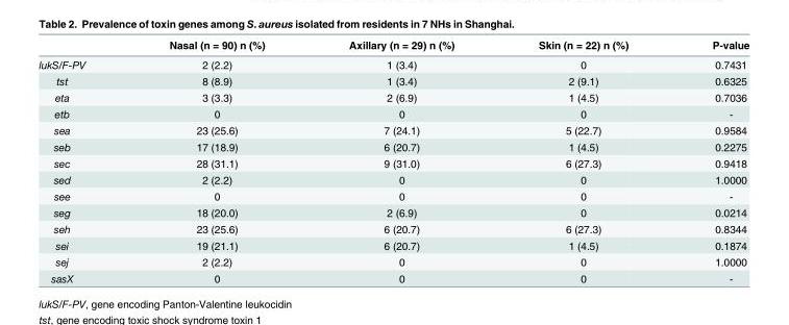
<table><thead><tr><td></td><td>Nasal (n = 90) n (%)</td><td>Axillary (n = 29) n (%)</td><td>Skin (n = 22) n (%)</td><td>P-value</td></tr></thead><tbody><tr><td>lukS/F-PV</td><td>2 (2.2)</td><td>1 (3.4)</td><td>0</td><td>0.7431</td></tr><tr><td>tst</td><td>8 (8.9)</td><td>1 (3.4)</td><td>2 (9.1)</td><td>0.6325</td></tr><tr><td>eta</td><td>3 (3.3)</td><td>2 (6.9)</td><td>1 (4.5)</td><td>0.7036</td></tr><tr><td>etb</td><td>0</td><td>0</td><td>0</td><td>-</td></tr><tr><td>sea</td><td>23 (25.6)</td><td>7 (24.1)</td><td>5 (22.7)</td><td>0.9584</td></tr><tr><td>seb</td><td>17 (18.9)</td><td>6 (20.7)</td><td>1 (4.5)</td><td>0.2275</td></tr><tr><td>sec</td><td>28 (31.1)</td><td>9 (31.0)</td><td>6 (27.3)</td><td>0.9418</td></tr><tr><td>sed</td><td>2 (2.2)</td><td>0</td><td>0</td><td>1.0000</td></tr><tr><td>see</td><td>0</td><td>0</td><td>0</td><td>-</td></tr><tr><td>seg</td><td>18 (20.0)</td><td>2 (6.9)</td><td>0</td><td>0.0214</td></tr><tr><td>seh</td><td>23 (25.6)</td><td>6 (20.7)</td><td>6 (27.3)</td><td>0.8344</td></tr><tr><td>sei</td><td>19 (21.1)</td><td>6 (20.7)</td><td>1 (4.5)</td><td>0.1874</td></tr><tr><td>sej</td><td>2 (2.2)</td><td>0</td><td>0</td><td>1.0000</td></tr><tr><td>sasX</td><td>0</td><td>0</td><td>0</td><td>-</td></tr></tbody></table>